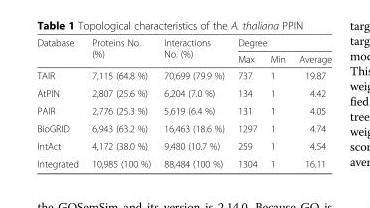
<table><thead><tr><td rowspan="2">Database</td><td rowspan="2">Proteins No. (%)</td><td rowspan="2">Interactions No. (%)</td><td colspan="3">Degree</td></tr><tr><td>Max</td><td>Min</td><td>Average</td></tr></thead><tbody><tr><td>TAIR</td><td>7,115 (64.8 %)</td><td>70,699 (79.9 %)</td><td>737</td><td>1</td><td>19.87</td></tr><tr><td>AtPIN</td><td>2,807 (25.6 %)</td><td>6,204 (7.0 %)</td><td>134</td><td>1</td><td>4.42</td></tr><tr><td>PAIR</td><td>2,776 (25.3 %)</td><td>5,619 (6.4 %)</td><td>131</td><td>1</td><td>4.05</td></tr><tr><td>BioGRID</td><td>6,943 (63.2 %)</td><td>16,463 (18.6 %)</td><td>1297</td><td>1</td><td>4.74</td></tr><tr><td>IntAct</td><td>4,172 (38.0 %)</td><td>9,480 (10.7 %)</td><td>259</td><td>1</td><td>4.54</td></tr><tr><td>Integrated</td><td>10,985 (100 %)</td><td>88,484 (100 %)</td><td>1304</td><td>1</td><td>16.11</td></tr></tbody></table>